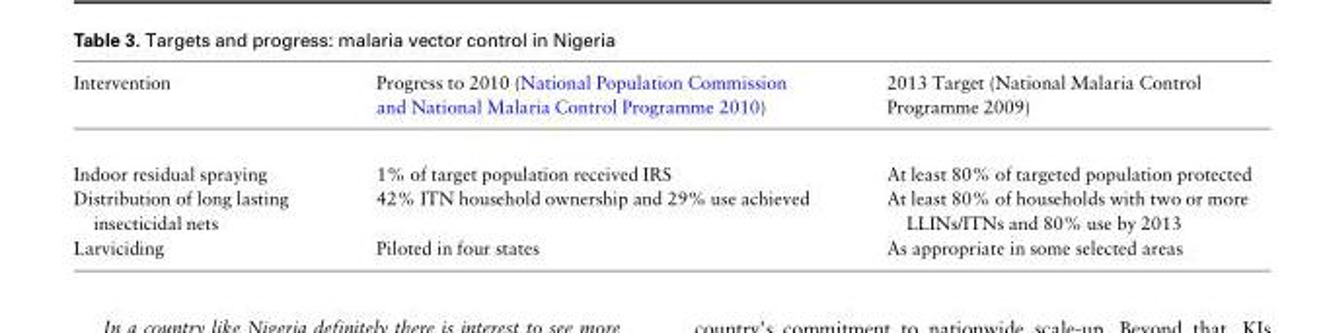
<table><thead><tr><td>Intervention</td><td>Progress to 2010 (National Population Commission and National Malaria Control Programme 2010)</td><td>2013 Target (National Malaria Control Programme 2009)</td></tr></thead><tbody><tr><td>Indoor residual spraying</td><td>1% of target population received IRS</td><td>At least 80% of targeted population protected</td></tr><tr><td>Distribution of long lasting insecticidal nets</td><td>42% ITN household ownership and 29% use achieved</td><td>At least 80% of households with two or more LLINs/ITNs and 80% use by 2013</td></tr><tr><td>Larviciding</td><td>Piloted in four states</td><td>As appropriate in some selected areas</td></tr></tbody></table>